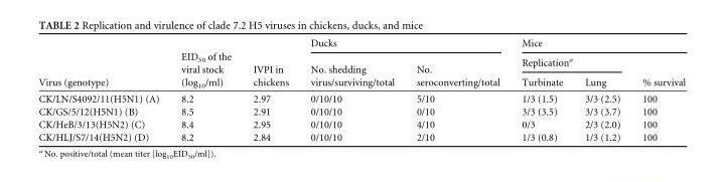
<table><thead><tr><td rowspan="3">Virus (genotype)</td><td rowspan="3">EID<sub>50</sub> of the viral stock (log<sub>10</sub>/ml)</td><td rowspan="3">IVPI in chickens</td><td colspan="2">Ducks</td><td colspan="3">Mice</td></tr><tr><td rowspan="2">No. shedding virus/surviving/total</td><td rowspan="2">No. seroconverting/total</td><td colspan="2">Replication<sup>a</sup></td><td rowspan="2">% survival</td></tr><tr><td>Turbinate</td><td>Lung</td></tr></thead><tbody><tr><td>CK/LN/S4092/11(H5N1) (A)</td><td>8.2</td><td>2.97</td><td>0/10/10</td><td>5/10</td><td>1/3 (1.5)</td><td>3/3 (2.5)</td><td>100</td></tr><tr><td>CK/GS/5/12(H5N1) (B)</td><td>8.5</td><td>2.91</td><td>0/10/10</td><td>0/10</td><td>3/3 (3.5)</td><td>3/3 (3.7)</td><td>100</td></tr><tr><td>CK/HeB/3/13(H5N2) (C)</td><td>8.4</td><td>2.95</td><td>0/10/10</td><td>4/10</td><td>0/3</td><td>2/3 (2.0)</td><td>100</td></tr><tr><td>CK/HLJ/S7/14(H5N2) (D)</td><td>8.2</td><td>2.84</td><td>0/10/10</td><td>2/10</td><td>1/3 (0.8)</td><td>1/3 (1.2)</td><td>100</td></tr></tbody></table>